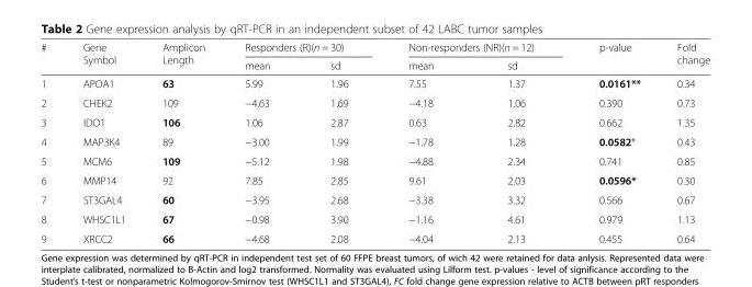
<table><thead><tr><td rowspan="2">#</td><td rowspan="2">Gene Symbol</td><td rowspan="2">Amplicon Length</td><td colspan="2">Responders (R)(n = 30)</td><td colspan="2">Non-responders (NR)(n = 12)</td><td rowspan="2">p-value</td><td rowspan="2">Fold change</td></tr><tr><td>mean</td><td>sd</td><td>mean</td><td>sd</td></tr></thead><tbody><tr><td>1</td><td>APOA1</td><td>63</td><td>5.99</td><td>1.96</td><td>7.55</td><td>1.37</td><td>0.0161**</td><td>0.34</td></tr><tr><td>2</td><td>CHEK2</td><td>109</td><td>−4.63</td><td>1.69</td><td>−4.18</td><td>1.06</td><td>0.390</td><td>0.73</td></tr><tr><td>3</td><td>IDO1</td><td>106</td><td>1.06</td><td>2.87</td><td>0.63</td><td>2.82</td><td>0.662</td><td>1.35</td></tr><tr><td>4</td><td>MAP3K4</td><td>89</td><td>−3.00</td><td>1.99</td><td>−1.78</td><td>1.28</td><td>0.0582*</td><td>0.43</td></tr><tr><td>5</td><td>MCM6</td><td>109</td><td>−5.12</td><td>1.98</td><td>−4.88</td><td>2.34</td><td>0.741</td><td>0.85</td></tr><tr><td>6</td><td>MMP14</td><td>92</td><td>7.85</td><td>2.85</td><td>9.61</td><td>2.03</td><td>0.0596*</td><td>0.30</td></tr><tr><td>7</td><td>ST3GAL4</td><td>60</td><td>−3.95</td><td>2.68</td><td>−3.38</td><td>3.32</td><td>0.566</td><td>0.67</td></tr><tr><td>8</td><td>WHSC1L1</td><td>67</td><td>−0.98</td><td>3.90</td><td>−1.16</td><td>4.61</td><td>0.979</td><td>1.13</td></tr><tr><td>9</td><td>XRCC2</td><td>66</td><td>−4.68</td><td>2.08</td><td>−4.04</td><td>2.13</td><td>0.455</td><td>0.64</td></tr></tbody></table>